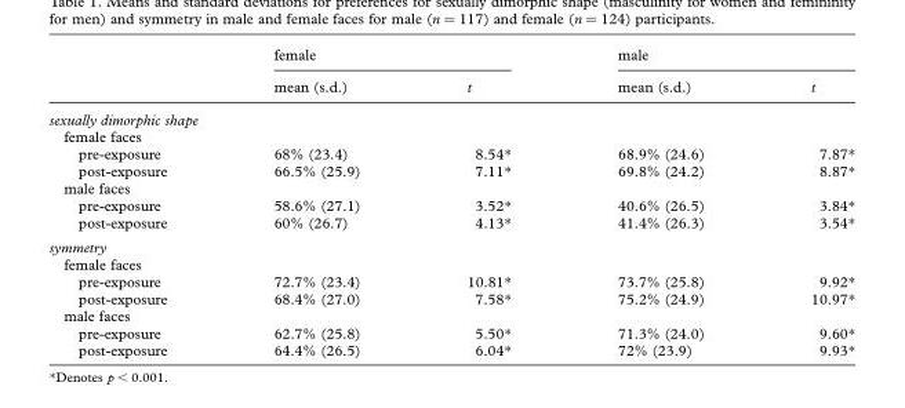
<table><thead><tr><td rowspan="2"></td><td colspan="2">female</td><td colspan="2">male</td></tr><tr><td>mean (s.d.)</td><td>t</td><td>mean (s.d.)</td><td>t</td></tr></thead><tbody><tr><td colspan="5">sexually dimorphic shape</td></tr><tr><td colspan="5">female faces</td></tr><tr><td>pre-exposure</td><td>68% (23.4)</td><td>8.54*</td><td>68.9% (24.6)</td><td>7.87*</td></tr><tr><td>post-exposure</td><td>66.5% (25.9)</td><td>7.11*</td><td>69.8% (24.2)</td><td>8.87*</td></tr><tr><td colspan="5">male faces</td></tr><tr><td>pre-exposure</td><td>58.6% (27.1)</td><td>3.52*</td><td>40.6% (26.5)</td><td>3.84*</td></tr><tr><td>post-exposure</td><td>60% (26.7)</td><td>4.13*</td><td>41.4% (26.3)</td><td>3.54*</td></tr><tr><td colspan="5">symmetry</td></tr><tr><td colspan="5">female faces</td></tr><tr><td>pre-exposure</td><td>72.7% (23.4)</td><td>10.81*</td><td>73.7% (25.8)</td><td>9.92*</td></tr><tr><td>post-exposure</td><td>68.4% (27.0)</td><td>7.58*</td><td>75.2% (24.9)</td><td>10.97*</td></tr><tr><td colspan="5">male faces</td></tr><tr><td>pre-exposure</td><td>62.7% (25.8)</td><td>5.50*</td><td>71.3% (24.0)</td><td>9.60*</td></tr><tr><td>post-exposure</td><td>64.4% (26.5)</td><td>6.04*</td><td>72% (23.9)</td><td>9.93*</td></tr></tbody></table>